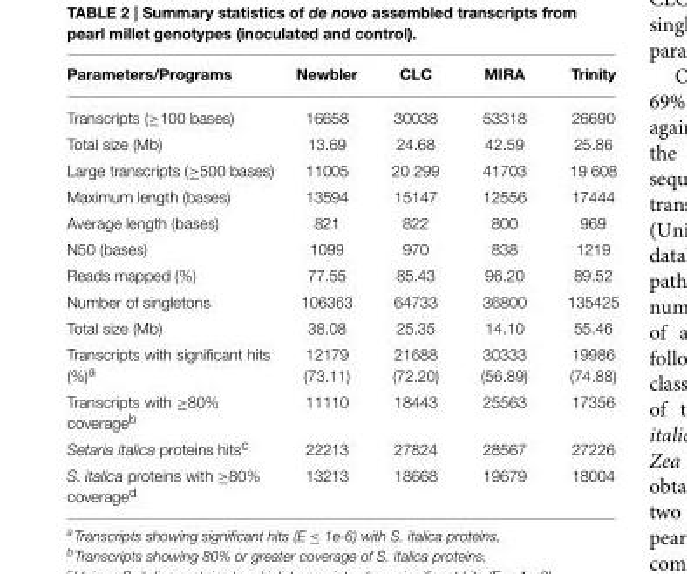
<table><thead><tr><td>Parameters/Programs</td><td>Newbler</td><td>CLC</td><td>MIRA</td><td>Trinity</td></tr></thead><tbody><tr><td>Transcripts (≥100 bases)</td><td>16658</td><td>30038</td><td>53318</td><td>26690</td></tr><tr><td>Total size (Mb)</td><td>13.69</td><td>24.68</td><td>42.59</td><td>25.86</td></tr><tr><td>Large transcripts (≥500 bases)</td><td>11005</td><td>20 299</td><td>41703</td><td>19 608</td></tr><tr><td>Maximum length (bases)</td><td>13594</td><td>15147</td><td>12556</td><td>17444</td></tr><tr><td>Average length (bases)</td><td>821</td><td>822</td><td>800</td><td>969</td></tr><tr><td>N50 (bases)</td><td>1099</td><td>970</td><td>838</td><td>1219</td></tr><tr><td>Reads mapped (%)</td><td>77.55</td><td>85.43</td><td>96.20</td><td>89.52</td></tr><tr><td>Number of singletons</td><td>106363</td><td>64733</td><td>36800</td><td>135425</td></tr><tr><td>Total size (Mb)</td><td>38.08</td><td>25.35</td><td>14.10</td><td>55.46</td></tr><tr><td>Transcripts with significant hits (%)<sup>a</sup></td><td>12179 (73.11)</td><td>21688 (72.20)</td><td>30333 (56.89)</td><td>19986 (74.88)</td></tr><tr><td>Transcripts with ≥80% coverage<sup>b</sup></td><td>11110</td><td>18443</td><td>25563</td><td>17356</td></tr><tr><td>Setaria italica proteins hits<sup>c</sup></td><td>22213</td><td>27824</td><td>28567</td><td>27226</td></tr><tr><td>S. italica proteins with ≥80% coverage<sup>d</sup></td><td>13213</td><td>18668</td><td>19679</td><td>18004</td></tr></tbody></table>